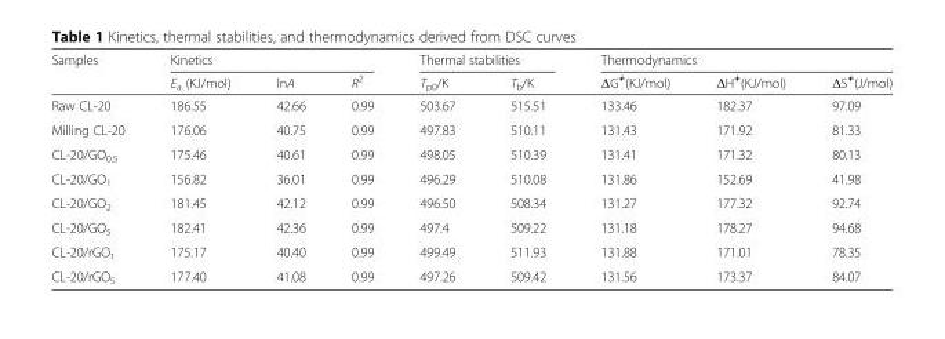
<table><thead><tr><td rowspan="2">Samples</td><td colspan="3">Kinetics</td><td colspan="2">Thermal stabilities</td><td colspan="3">Thermodynamics</td></tr><tr><td>E<sub>a</sub> (KJ/mol)</td><td>lnA</td><td>R<sup>2</sup></td><td>T<sub>p0</sub>/K</td><td>T<sub>b</sub>/K</td><td>ΔG<sup>≠</sup>(KJ/mol)</td><td>ΔH<sup>≠</sup>(KJ/mol)</td><td>ΔS<sup>≠</sup>(J/mol)</td></tr></thead><tbody><tr><td>Raw CL-20</td><td>186.55</td><td>42.66</td><td>0.99</td><td>503.67</td><td>515.51</td><td>133.46</td><td>182.37</td><td>97.09</td></tr><tr><td>Milling CL-20</td><td>176.06</td><td>40.75</td><td>0.99</td><td>497.83</td><td>510.11</td><td>131.43</td><td>171.92</td><td>81.33</td></tr><tr><td>CL-20/GO<sub>0.5</sub></td><td>175.46</td><td>40.61</td><td>0.99</td><td>498.05</td><td>510.39</td><td>131.41</td><td>171.32</td><td>80.13</td></tr><tr><td>CL-20/GO<sub>1</sub></td><td>156.82</td><td>36.01</td><td>0.99</td><td>496.29</td><td>510.08</td><td>131.86</td><td>152.69</td><td>41.98</td></tr><tr><td>CL-20/GO<sub>2</sub></td><td>181.45</td><td>42.12</td><td>0.99</td><td>496.50</td><td>508.34</td><td>131.27</td><td>177.32</td><td>92.74</td></tr><tr><td>CL-20/GO<sub>5</sub></td><td>182.41</td><td>42.36</td><td>0.99</td><td>497.4</td><td>509.22</td><td>131.18</td><td>178.27</td><td>94.68</td></tr><tr><td>CL-20/rGO<sub>1</sub></td><td>175.17</td><td>40.40</td><td>0.99</td><td>499.49</td><td>511.93</td><td>131.88</td><td>171.01</td><td>78.35</td></tr><tr><td>CL-20/rGO<sub>5</sub></td><td>177.40</td><td>41.08</td><td>0.99</td><td>497.26</td><td>509.42</td><td>131.56</td><td>173.37</td><td>84.07</td></tr></tbody></table>